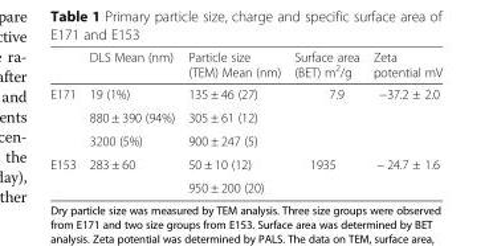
<table><thead><tr><td></td><td>DLS Mean (nm)</td><td>Particle size (TEM) Mean (nm)</td><td>Surface area (BET) m<sup>2</sup>/g</td><td>Zeta potential mV</td></tr></thead><tbody><tr><td rowspan="3">E171</td><td>19 (1%)</td><td>135 ± 46 (27)</td><td rowspan="3">7.9</td><td rowspan="3">−37.2 ± 2.0</td></tr><tr><td>880 ± 390 (94%)</td><td>305 ± 61 (12)</td></tr><tr><td>3200 (5%)</td><td>900 ± 247 (5)</td></tr><tr><td rowspan="2">E153</td><td rowspan="2">283 ± 60</td><td>50 ± 10 (12)</td><td rowspan="2">1935</td><td rowspan="2">− 24.7 ± 1.6</td></tr><tr><td>950 ± 200 (20)</td></tr></tbody></table>